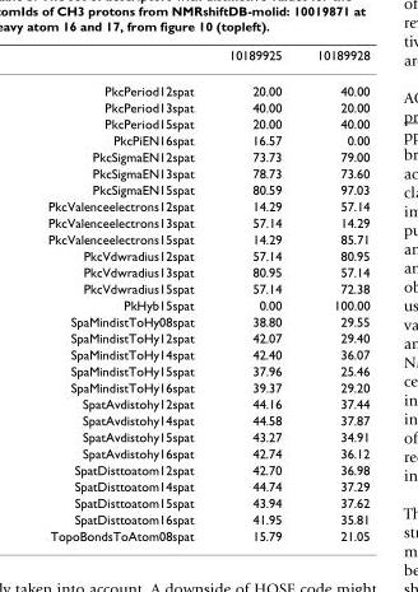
<table><thead><tr><td></td><td>10189925</td><td>10189928</td></tr></thead><tbody><tr><td>PkcPeriod12spat</td><td>20.00</td><td>40.00</td></tr><tr><td>PkcPeriod13spat</td><td>40.00</td><td>20.00</td></tr><tr><td>PkcPeriod15spat</td><td>20.00</td><td>40.00</td></tr><tr><td>PkcPiEN16spat</td><td>16.57</td><td>0.00</td></tr><tr><td>PkcSigmaEN12spat</td><td>73.73</td><td>79.00</td></tr><tr><td>PkcSigmaEN13spat</td><td>78.73</td><td>73.60</td></tr><tr><td>PkcSigmaEN15spat</td><td>80.59</td><td>97.03</td></tr><tr><td>PkcValenceelectrons12spat</td><td>14.29</td><td>57.14</td></tr><tr><td>PkcValenceelectrons13spat</td><td>57.14</td><td>14.29</td></tr><tr><td>PkcValenceelectrons15spat</td><td>14.29</td><td>85.71</td></tr><tr><td>PkcVdwradius12spat</td><td>57.14</td><td>80.95</td></tr><tr><td>PkcVdwradius13spat</td><td>80.95</td><td>57.14</td></tr><tr><td>PkcVdwradius15spat</td><td>57.14</td><td>72.38</td></tr><tr><td>PkHyb15spat</td><td>0.00</td><td>100.00</td></tr><tr><td>SpaMindistToHy08spat</td><td>38.80</td><td>29.55</td></tr><tr><td>SpaMindistToHy12spat</td><td>42.07</td><td>29.40</td></tr><tr><td>SpaMindistToHy14spat</td><td>42.40</td><td>36.07</td></tr><tr><td>SpaMindistToHy15spat</td><td>37.96</td><td>25.46</td></tr><tr><td>SpaMindistToHy16spat</td><td>39.37</td><td>29.20</td></tr><tr><td>SpatAvdistohy12spat</td><td>44.16</td><td>37.44</td></tr><tr><td>SpatAvdistohy14spat</td><td>44.58</td><td>37.87</td></tr><tr><td>SpatAvdistohy15spat</td><td>43.27</td><td>34.91</td></tr><tr><td>SpatAvdistohy16spat</td><td>42.74</td><td>36.12</td></tr><tr><td>SpatDisttoatom12spat</td><td>42.70</td><td>36.98</td></tr><tr><td>SpatDisttoatom14spat</td><td>44.74</td><td>37.29</td></tr><tr><td>SpatDisttoatom15spat</td><td>43.94</td><td>37.62</td></tr><tr><td>SpatDisttoatom16spat</td><td>41.95</td><td>35.81</td></tr><tr><td>TopoBondsToAtom08spat</td><td>15.79</td><td>21.05</td></tr></tbody></table>